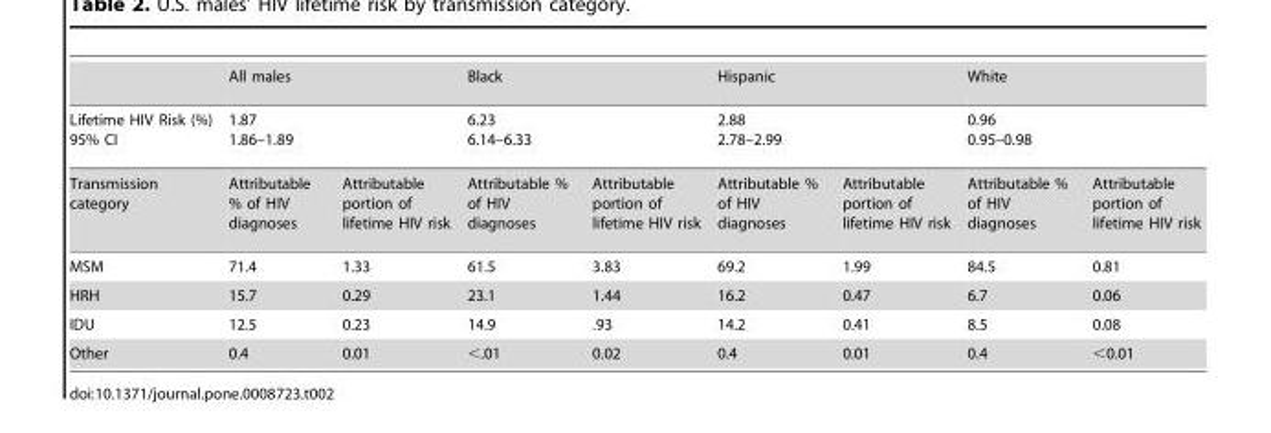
<table><thead><tr><td rowspan="3">Lifetime HIV Risk (%) 95% CI Transmission category</td><td rowspan="2" colspan="2">All males 1.87 1.86–1.89</td><td rowspan="2" colspan="2">Black 6.23 6.14–6.33</td><td rowspan="2" colspan="2">Hispanic 2.88 2.78–2.99</td><td rowspan="2" colspan="2">White 0.96 0.95–0.98</td></tr><tr></tr><tr><td>Attributable % of HIV diagnoses</td><td>Attributable portion of lifetime HIV risk</td><td>Attributable % of HIV diagnoses</td><td>Attributable portion of lifetime HIV risk</td><td>Attributable % of HIV diagnoses</td><td>Attributable portion of lifetime HIV risk</td><td>Attributable % of HIV diagnoses</td><td>Attributable portion of lifetime HIV risk</td></tr></thead><tbody><tr><td>MSM</td><td>71.4</td><td>1.33</td><td>61.5</td><td>3.83</td><td>69.2</td><td>1.99</td><td>84.5</td><td>0.81</td></tr><tr><td>HRH</td><td>15.7</td><td>0.29</td><td>23.1</td><td>1.44</td><td>16.2</td><td>0.47</td><td>6.7</td><td>0.06</td></tr><tr><td>IDU</td><td>12.5</td><td>0.23</td><td>14.9</td><td>.93</td><td>14.2</td><td>0.41</td><td>8.5</td><td>0.08</td></tr><tr><td>Other</td><td>0.4</td><td>0.01</td><td>&lt;.01</td><td>0.02</td><td>0.4</td><td>0.01</td><td>0.4</td><td>&lt;0.01</td></tr></tbody></table>